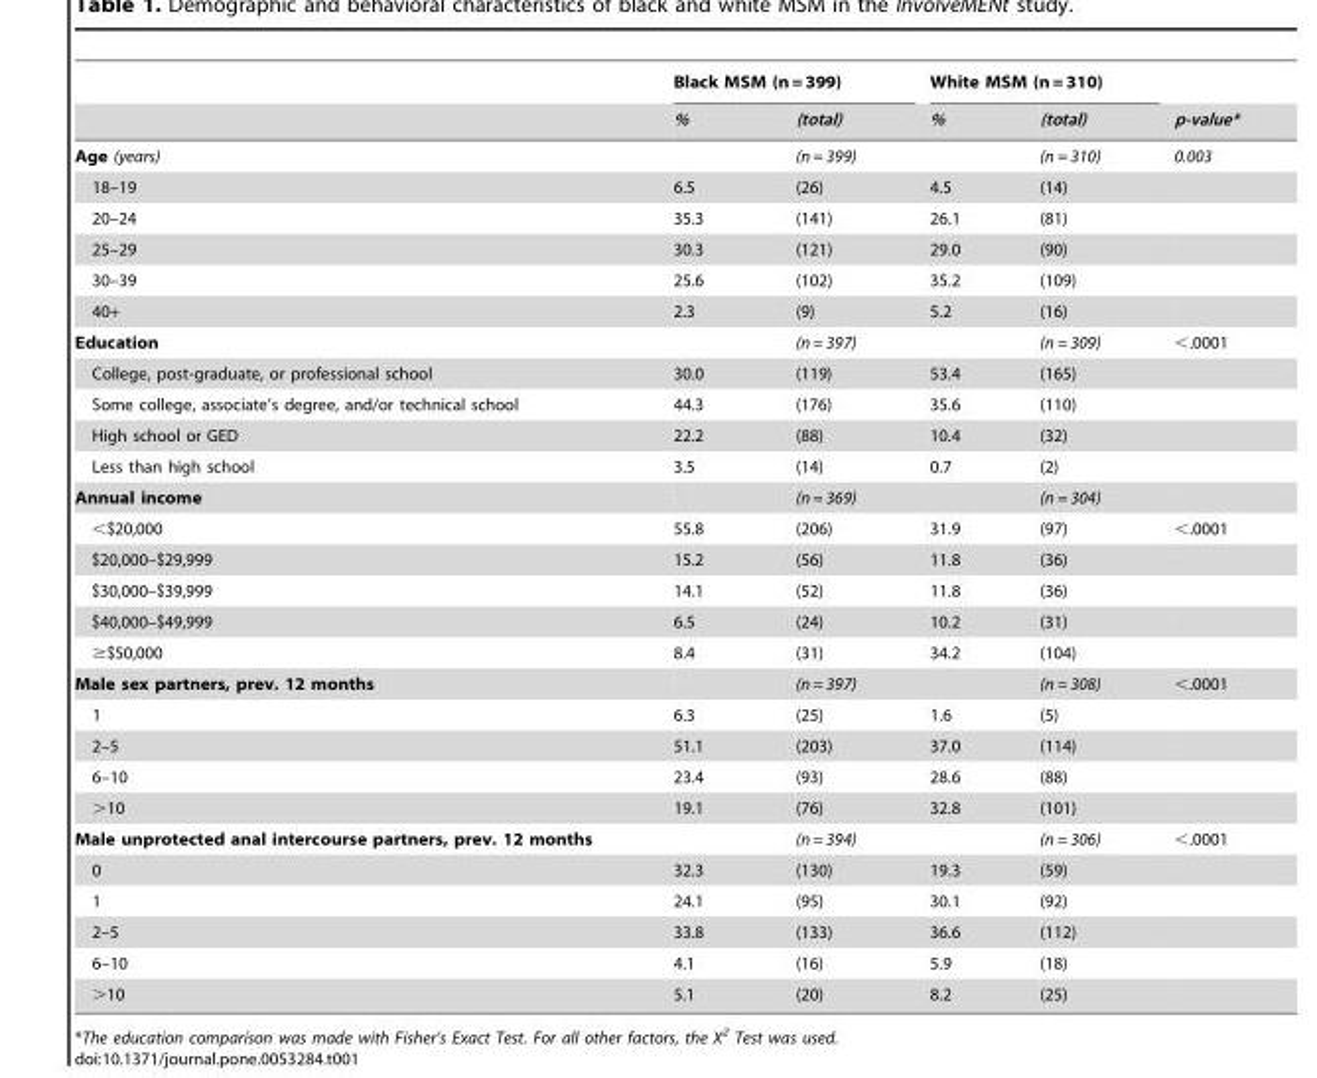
<table><thead><tr><td rowspan="2"></td><td colspan="2">Black MSM (n = 399)</td><td colspan="2">White MSM (n = 310)</td><td rowspan="2">p-value*</td></tr><tr><td>%</td><td>(total)</td><td>%</td><td>(total)</td></tr></thead><tbody><tr><td>Age (years)</td><td></td><td>(n = 399)</td><td></td><td>(n = 310)</td><td>0.003</td></tr><tr><td>18–19</td><td>6.5</td><td>(26)</td><td>4.5</td><td>(14)</td><td></td></tr><tr><td>20–24</td><td>35.3</td><td>(141)</td><td>26.1</td><td>(81)</td><td></td></tr><tr><td>25–29</td><td>30.3</td><td>(121)</td><td>29.0</td><td>(90)</td><td></td></tr><tr><td>30–39</td><td>25.6</td><td>(102)</td><td>35.2</td><td>(109)</td><td></td></tr><tr><td>40+</td><td>2.3</td><td>(9)</td><td>5.2</td><td>(16)</td><td></td></tr><tr><td>Education</td><td></td><td>(n = 397)</td><td></td><td>(n = 309)</td><td>&lt;.0001</td></tr><tr><td>College, post-graduate, or professional school</td><td>30.0</td><td>(119)</td><td>53.4</td><td>(165)</td><td></td></tr><tr><td>Some college, associate’s degree, and/or technical school</td><td>44.3</td><td>(176)</td><td>35.6</td><td>(110)</td><td></td></tr><tr><td>High school or GED</td><td>22.2</td><td>(88)</td><td>10.4</td><td>(32)</td><td></td></tr><tr><td>Less than high school</td><td>3.5</td><td>(14)</td><td>0.7</td><td>(2)</td><td></td></tr><tr><td>Annual income</td><td></td><td>(n = 369)</td><td></td><td>(n = 304)</td><td></td></tr><tr><td>&lt;$20,000</td><td>55.8</td><td>(206)</td><td>31.9</td><td>(97)</td><td>&lt;.0001</td></tr><tr><td>$20,000–$29,999</td><td>15.2</td><td>(56)</td><td>11.8</td><td>(36)</td><td></td></tr><tr><td>$30,000–$39,999</td><td>14.1</td><td>(52)</td><td>11.8</td><td>(36)</td><td></td></tr><tr><td>$40,000–$49,999</td><td>6.5</td><td>(24)</td><td>10.2</td><td>(31)</td><td></td></tr><tr><td>≥$50,000</td><td>8.4</td><td>(31)</td><td>34.2</td><td>(104)</td><td></td></tr><tr><td>Male sex partners, prev. 12 months</td><td></td><td>(n = 397)</td><td></td><td>(n = 308)</td><td>&lt;.0001</td></tr><tr><td>1</td><td>6.3</td><td>(25)</td><td>1.6</td><td>(5)</td><td></td></tr><tr><td>2–5</td><td>51.1</td><td>(203)</td><td>37.0</td><td>(114)</td><td></td></tr><tr><td>6–10</td><td>23.4</td><td>(93)</td><td>28.6</td><td>(88)</td><td></td></tr><tr><td>&gt;10</td><td>19.1</td><td>(76)</td><td>32.8</td><td>(101)</td><td></td></tr><tr><td>Male unprotected anal intercourse partners, prev. 12 months</td><td></td><td>(n = 394)</td><td></td><td>(n = 306)</td><td>&lt;.0001</td></tr><tr><td>0</td><td>32.3</td><td>(130)</td><td>19.3</td><td>(59)</td><td></td></tr><tr><td>1</td><td>24.1</td><td>(95)</td><td>30.1</td><td>(92)</td><td></td></tr><tr><td>2–5</td><td>33.8</td><td>(133)</td><td>36.6</td><td>(112)</td><td></td></tr><tr><td>6–10</td><td>4.1</td><td>(16)</td><td>5.9</td><td>(18)</td><td></td></tr><tr><td>&gt;10</td><td>5.1</td><td>(20)</td><td>8.2</td><td>(25)</td><td></td></tr></tbody></table>